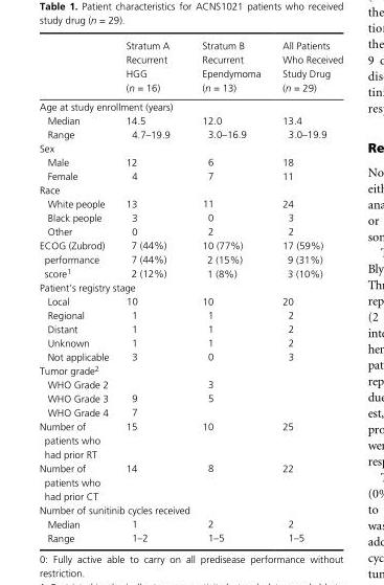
<table><thead><tr><td></td><td>Stratum A Recurrent HGG (n = 16)</td><td>Stratum B Recurrent Ependymoma (n = 13)</td><td>All Patients Who Received Study Drug (n = 29)</td></tr></thead><tbody><tr><td colspan="4">Age at study enrollment (years)</td></tr><tr><td>Median</td><td>14.5</td><td>12.0</td><td>13.4</td></tr><tr><td>Range</td><td>4.7–19.9</td><td>3.0–16.9</td><td>3.0–19.9</td></tr><tr><td colspan="4">Sex</td></tr><tr><td>Male</td><td>12</td><td>6</td><td>18</td></tr><tr><td>Female</td><td>4</td><td>7</td><td>11</td></tr><tr><td colspan="4">Race</td></tr><tr><td>White people</td><td>13</td><td>11</td><td>24</td></tr><tr><td>Black people</td><td>3</td><td>0</td><td>3</td></tr><tr><td>Other</td><td>0</td><td>2</td><td>2</td></tr><tr><td>ECOG (Zubrod) performance score<sup>1</sup></td><td>7 (44%) 7 (44%) 2 (12%)</td><td>10 (77%) 2 (15%) 1 (8%)</td><td>17 (59%) 9 (31%) 3 (10%)</td></tr><tr><td colspan="4">Patient’s registry stage</td></tr><tr><td>Local</td><td>10</td><td>10</td><td>20</td></tr><tr><td>Regional</td><td>1</td><td>1</td><td>2</td></tr><tr><td>Distant</td><td>1</td><td>1</td><td>2</td></tr><tr><td>Unknown</td><td>1</td><td>1</td><td>2</td></tr><tr><td>Not applicable</td><td>3</td><td>0</td><td>3</td></tr><tr><td colspan="4">Tumor grade<sup>2</sup></td></tr><tr><td>WHO Grade 2</td><td></td><td>3</td><td></td></tr><tr><td>WHO Grade 3</td><td>9</td><td>5</td><td></td></tr><tr><td>WHO Grade 4</td><td>7</td><td></td><td></td></tr><tr><td>Number of patients who had prior RT</td><td>15</td><td>10</td><td>25</td></tr><tr><td>Number of patients who had prior CT</td><td>14</td><td>8</td><td>22</td></tr><tr><td colspan="4">Number of sunitinib cycles received</td></tr><tr><td>Median</td><td>1</td><td>2</td><td>2</td></tr><tr><td>Range</td><td>1–2</td><td>1–5</td><td>1–5</td></tr></tbody></table>